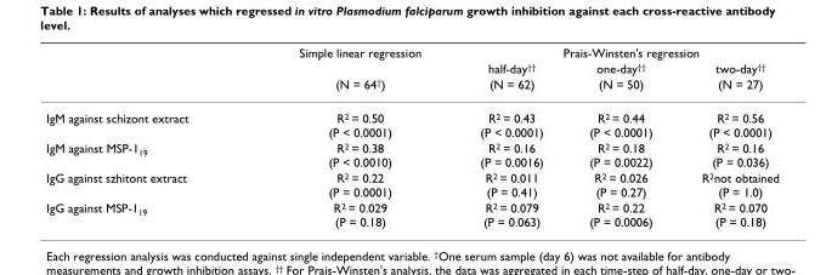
<table><thead><tr><td rowspan="3"></td><td rowspan="3">Simple linear regression (N = 64<sup>†</sup>)</td><td colspan="3">Prais-Winsten&#x27;s regression</td></tr><tr><td rowspan="2">half-day<sup>††</sup> (N = 62)</td><td rowspan="2">one-day<sup>††</sup> (N = 50)</td><td rowspan="2">two-day<sup>††</sup> (N = 27)</td></tr><tr></tr></thead><tbody><tr><td>IgM against schizont extract</td><td>R<sup>2</sup> = 0.50 (P &lt; 0.0001)</td><td>R<sup>2</sup> = 0.43 (P &lt; 0.0001)</td><td>R<sup>2</sup> = 0.44 (P &lt; 0.0001)</td><td>R<sup>2</sup> = 0.56 (P &lt; 0.0001)</td></tr><tr><td>IgM against MSP-1<sub>19</sub></td><td>R<sup>2</sup> = 0.38 (P &lt; 0.0010)</td><td>R<sup>2</sup> = 0.16 (P = 0.0016)</td><td>R<sup>2</sup> = 0.18 (P = 0.0022)</td><td>R<sup>2</sup> = 0.16 (P = 0.036)</td></tr><tr><td>IgG against szhitont extract</td><td>R<sup>2</sup> = 0.22 (P = 0.0001)</td><td>R<sup>2</sup> = 0.011 (P = 0.41)</td><td>R<sup>2</sup> = 0.026 (P = 0.27)</td><td>R<sup>2</sup>not obtained (P = 1.0)</td></tr><tr><td>IgG against MSP-1<sub>19</sub></td><td>R<sup>2</sup> = 0.029 (P = 0.18)</td><td>R<sup>2</sup> = 0.079 (P = 0.063)</td><td>R<sup>2</sup> = 0.22 (P = 0.0006)</td><td>R<sup>2</sup> = 0.070 (P = 0.18)</td></tr></tbody></table>